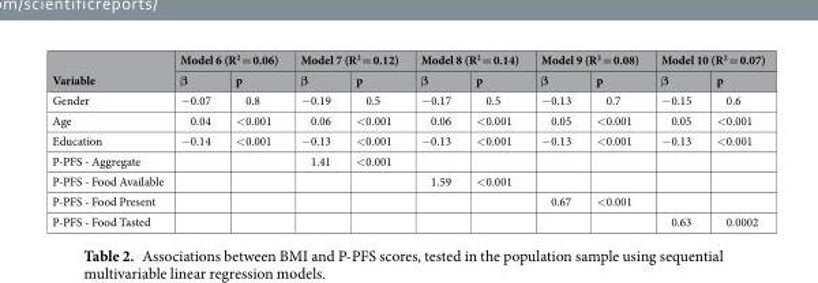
<table><thead><tr><td rowspan="2">Variable</td><td colspan="2">Model 6 (R<sup>2</sup> = 0.06)</td><td colspan="2">Model 7 (R<sup>2</sup> = 0.12)</td><td colspan="2">Model 8 (R<sup>2</sup> = 0.14)</td><td colspan="2">Model 9 (R<sup>2</sup> = 0.08)</td><td colspan="2">Model 10 (R<sup>2</sup> = 0.07)</td></tr><tr><td>β</td><td>p</td><td>β</td><td>p</td><td>β</td><td>p</td><td>β</td><td>p</td><td>β</td><td>p</td></tr></thead><tbody><tr><td>Gender</td><td>−0.07</td><td>0.8</td><td>−0.19</td><td>0.5</td><td>−0.17</td><td>0.5</td><td>−0.13</td><td>0.7</td><td>−0.15</td><td>0.6</td></tr><tr><td>Age</td><td>0.04</td><td>&lt;0.001</td><td>0.06</td><td>&lt;0.001</td><td>0.06</td><td>&lt;0.001</td><td>0.05</td><td>&lt;0.001</td><td>0.05</td><td>&lt;0.001</td></tr><tr><td>Education</td><td>−0.14</td><td>&lt;0.001</td><td>−0.13</td><td>&lt;0.001</td><td>−0.13</td><td>&lt;0.001</td><td>−0.13</td><td>&lt;0.001</td><td>−0.13</td><td>&lt;0.001</td></tr><tr><td>P-PFS - Aggregate</td><td></td><td></td><td>1.41</td><td>&lt;0.001</td><td></td><td></td><td></td><td></td><td></td><td></td></tr><tr><td>P-PFS - Food Available</td><td></td><td></td><td></td><td></td><td>1.59</td><td>&lt;0.001</td><td></td><td></td><td></td><td></td></tr><tr><td>P-PFS - Food Present</td><td></td><td></td><td></td><td></td><td></td><td></td><td>0.67</td><td>&lt;0.001</td><td></td><td></td></tr><tr><td>P-PFS - Food Tasted</td><td></td><td></td><td></td><td></td><td></td><td></td><td></td><td></td><td>0.63</td><td>0.0002</td></tr></tbody></table>